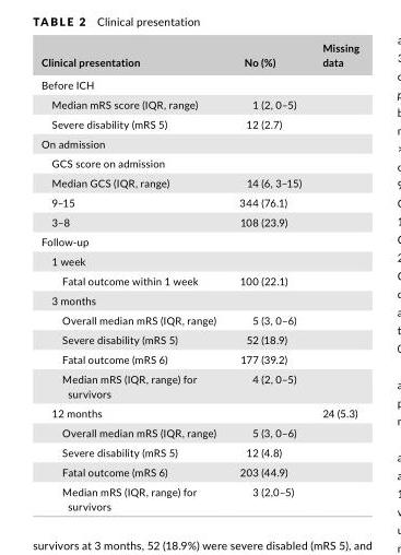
<table><thead><tr><td>Clinical presentation</td><td>No (%)</td><td>Missing data</td></tr></thead><tbody><tr><td colspan="3">Before ICH</td></tr><tr><td>Median mRS score (IQR, range)</td><td>1 (2, 0–5)</td><td></td></tr><tr><td>Severe disability (mRS 5)</td><td>12 (2.7)</td><td></td></tr><tr><td colspan="3">On admission</td></tr><tr><td colspan="3">GCS score on admission</td></tr><tr><td>Median GCS (IQR, range)</td><td>14 (6, 3–15)</td><td></td></tr><tr><td>9–15</td><td>344 (76.1)</td><td></td></tr><tr><td>3–8</td><td>108 (23.9)</td><td></td></tr><tr><td colspan="3">Follow‐up</td></tr><tr><td colspan="3">1 week</td></tr><tr><td>Fatal outcome within 1 week</td><td>100 (22.1)</td><td></td></tr><tr><td colspan="3">3 months</td></tr><tr><td>Overall median mRS (IQR, range)</td><td>5 (3, 0–6)</td><td></td></tr><tr><td>Severe disability (mRS 5)</td><td>52 (18.9)</td><td></td></tr><tr><td>Fatal outcome (mRS 6)</td><td>177 (39.2)</td><td></td></tr><tr><td>Median mRS (IQR, range) for survivors</td><td>4 (2, 0–5)</td><td></td></tr><tr><td>12 months</td><td></td><td>24 (5.3)</td></tr><tr><td>Overall median mRS (IQR, range)</td><td>5 (3, 0–6)</td><td></td></tr><tr><td>Severe disability (mRS 5)</td><td>12 (4.8)</td><td></td></tr><tr><td>Fatal outcome (mRS 6)</td><td>203 (44.9)</td><td></td></tr><tr><td>Median mRS (IQR, range) for survivors</td><td>3 (2,0–5)</td><td></td></tr></tbody></table>